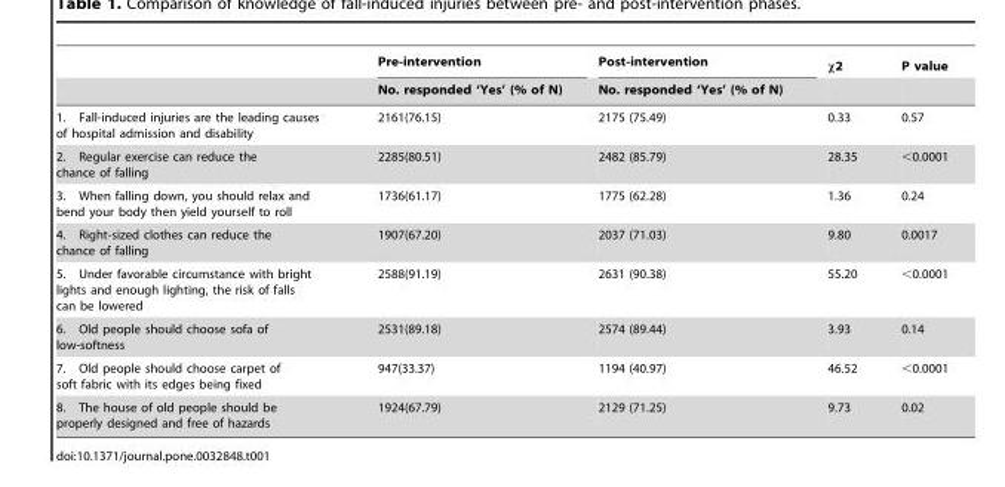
<table><thead><tr><td rowspan="2"></td><td rowspan="2">Pre-intervention No. responded ‘Yes’ (% of N)</td><td rowspan="2">Post-intervention No. responded ‘Yes’ (% of N)</td><td rowspan="2">χ2</td><td rowspan="2">P value</td></tr><tr></tr></thead><tbody><tr><td>1. Fall-induced injuries are the leading causes of hospital admission and disability</td><td>2161(76.15)</td><td>2175 (75.49)</td><td>0.33</td><td>0.57</td></tr><tr><td>2. Regular exercise can reduce the chance of falling</td><td>2285(80.51)</td><td>2482 (85.79)</td><td>28.35</td><td>&lt;0.0001</td></tr><tr><td>3. When falling down, you should relax and bend your body then yield yourself to roll</td><td>1736(61.17)</td><td>1775 (62.28)</td><td>1.36</td><td>0.24</td></tr><tr><td>4. Right-sized clothes can reduce the chance of falling</td><td>1907(67.20)</td><td>2037 (71.03)</td><td>9.80</td><td>0.0017</td></tr><tr><td>5. Under favorable circumstance with bright lights and enough lighting, the risk of falls can be lowered</td><td>2588(91.19)</td><td>2631 (90.38)</td><td>55.20</td><td>&lt;0.0001</td></tr><tr><td>6. Old people should choose sofa of low-softness</td><td>2531(89.18)</td><td>2574 (89.44)</td><td>3.93</td><td>0.14</td></tr><tr><td>7. Old people should choose carpet of soft fabric with its edges being fixed</td><td>947(33.37)</td><td>1194 (40.97)</td><td>46.52</td><td>&lt;0.0001</td></tr><tr><td>8. The house of old people should be properly designed and free of hazards</td><td>1924(67.79)</td><td>2129 (71.25)</td><td>9.73</td><td>0.02</td></tr></tbody></table>